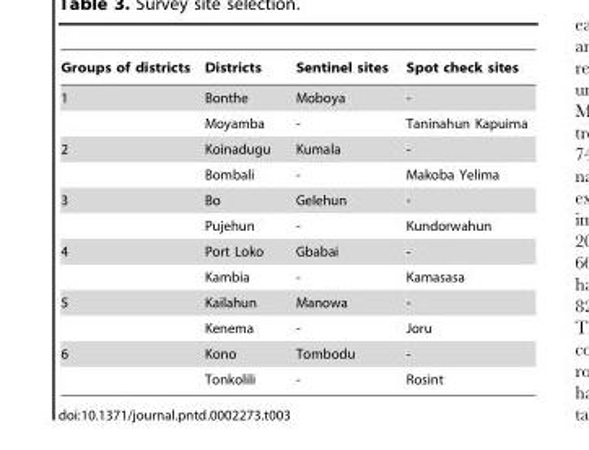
<table><thead><tr><td>Groups of districts</td><td>Districts</td><td>Sentinel sites</td><td>Spot check sites</td></tr></thead><tbody><tr><td rowspan="2">1</td><td>Bonthe</td><td>Moboya</td><td>-</td></tr><tr><td>Moyamba</td><td>-</td><td>Taninahun Kapuima</td></tr><tr><td rowspan="2">2</td><td>Koinadugu</td><td>Kumala</td><td>-</td></tr><tr><td>Bombali</td><td>-</td><td>Makoba Yelima</td></tr><tr><td rowspan="2">3</td><td>Bo</td><td>Gelehun</td><td>-</td></tr><tr><td>Pujehun</td><td>-</td><td>Kundorwahun</td></tr><tr><td rowspan="2">4</td><td>Port Loko</td><td>Gbabai</td><td>-</td></tr><tr><td>Kambia</td><td>-</td><td>Kamasasa</td></tr><tr><td rowspan="2">5</td><td>Kailahun</td><td>Manowa</td><td>-</td></tr><tr><td>Kenema</td><td>-</td><td>Joru</td></tr><tr><td rowspan="2">6</td><td>Kono</td><td>Tombodu</td><td>-</td></tr><tr><td>Tonkolili</td><td>-</td><td>Rosint</td></tr></tbody></table>